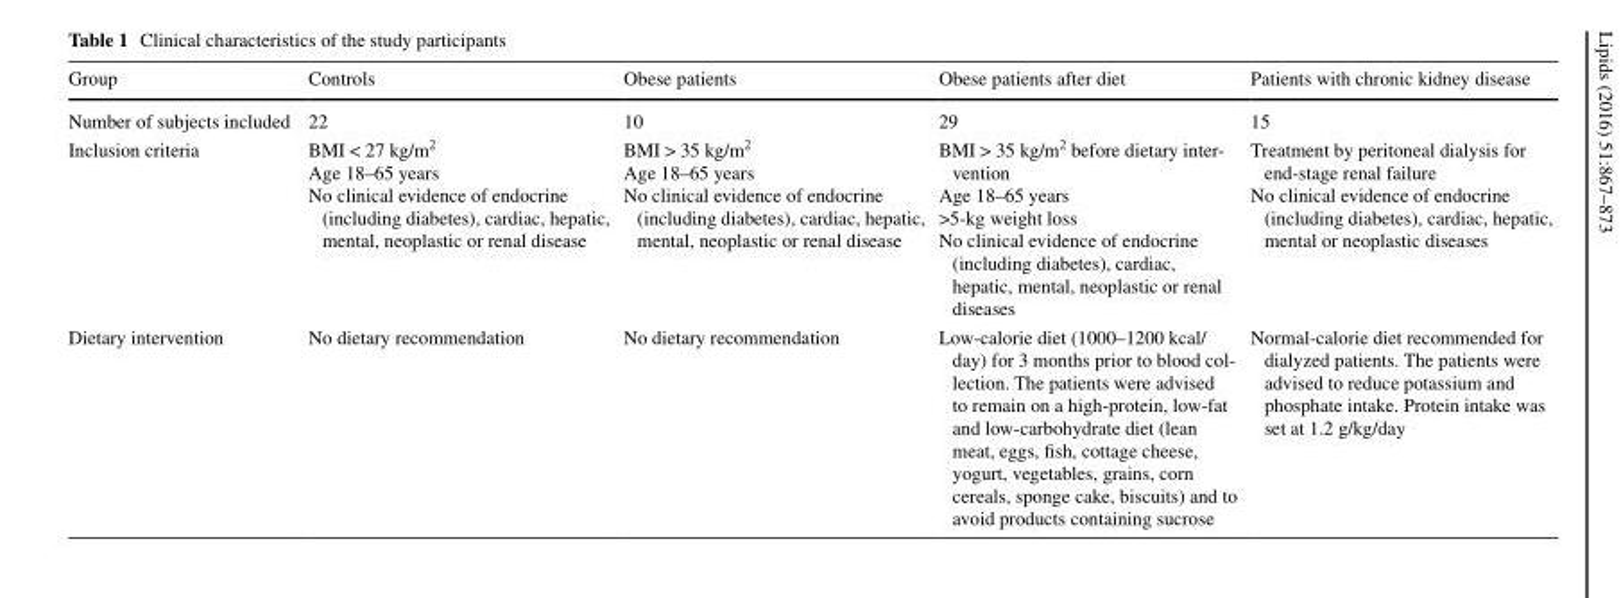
<table><thead><tr><td>Group</td><td>Controls</td><td>Obese patients</td><td>Obese patients after diet</td><td>Patients with chronic kidney disease</td></tr></thead><tbody><tr><td>Number of subjects included</td><td>22</td><td>10</td><td>29</td><td>15</td></tr><tr><td>Inclusion criteria</td><td>BMI &lt; 27 kg/m<sup>2</sup> Age 18–65 years No clinical evidence of endocrine (including diabetes), cardiac, hepatic, mental, neoplastic or renal disease</td><td>BMI &gt; 35 kg/m<sup>2</sup> Age 18–65 years No clinical evidence of endocrine (including diabetes), cardiac, hepatic, mental, neoplastic or renal disease</td><td>BMI &gt; 35 kg/m2 before dietary inter- vention Age 18–65 years &gt;5-kg weight loss No clinical evidence of endocrine (including diabetes), cardiac, hepatic, mental, neoplastic or renal diseases</td><td>Treatment by peritoneal dialysis for end-stage renal failure No clinical evidence of endocrine (including diabetes), cardiac, hepatic, mental or neoplastic diseases</td></tr><tr><td>Dietary intervention</td><td>No dietary recommendation</td><td>No dietary recommendation</td><td>Low-calorie diet (1000–1200 kcal/ day) for 3 months prior to blood col- lection. The patients were advised to remain on a high-protein, low-fat and low-carbohydrate diet (lean meat, eggs, fish, cottage cheese, yogurt, vegetables, grains, corn cereals, sponge cake, biscuits) and to avoid products containing sucrose</td><td>Normal-calorie diet recommended for dialyzed patients. The patients were advised to reduce potassium and phosphate intake. Protein intake was set at 1.2 g/kg/day</td></tr></tbody></table>